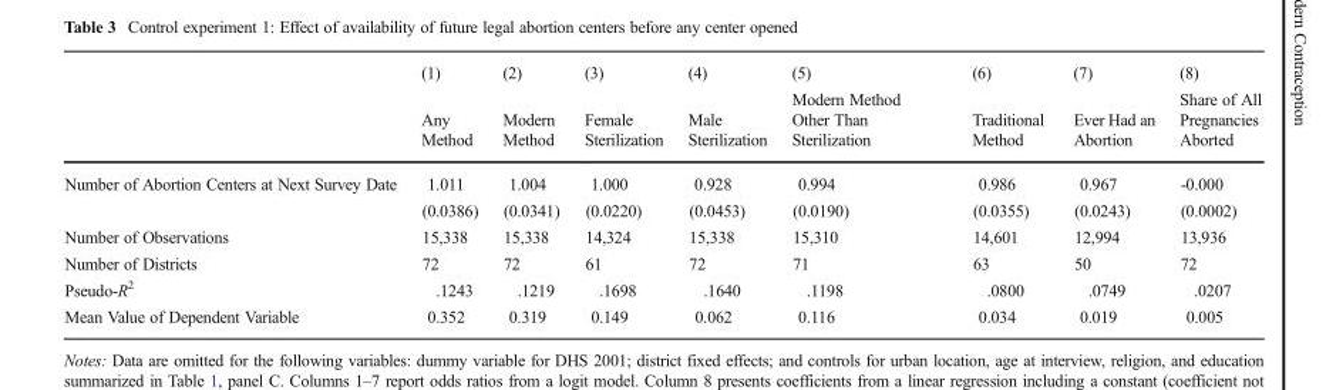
<table><thead><tr><td rowspan="2"></td><td rowspan="2">(1) Any Method</td><td rowspan="2">(2) Modern Method</td><td rowspan="2">(3) Female Sterilization</td><td rowspan="2">(4) Male Sterilization</td><td rowspan="2">(5) Modern Method Other Than Sterilization</td><td rowspan="2">(6) Traditional Method</td><td rowspan="2">(7) Ever Had an Abortion</td><td rowspan="2">(8) Share of All Pregnancies Aborted</td></tr><tr></tr></thead><tbody><tr><td rowspan="2">Number of Abortion Centers at Next Survey Date</td><td>1.011</td><td>1.004</td><td>1.000</td><td>0.928</td><td>0.994</td><td>0.986</td><td>0.967</td><td>-0.000</td></tr><tr><td>(0.0386)</td><td>(0.0341)</td><td>(0.0220)</td><td>(0.0453)</td><td>(0.0190)</td><td>(0.0355)</td><td>(0.0243)</td><td>(0.0002)</td></tr><tr><td>Number of Observations</td><td>15,338</td><td>15,338</td><td>14,324</td><td>15,338</td><td>15,310</td><td>14,601</td><td>12,994</td><td>13,936</td></tr><tr><td>Number of Districts</td><td>72</td><td>72</td><td>61</td><td>72</td><td>71</td><td>63</td><td>50</td><td>72</td></tr><tr><td>Pseudo-R<sup>2</sup></td><td>.1243</td><td>.1219</td><td>.1698</td><td>.1640</td><td>.1198</td><td>.0800</td><td>.0749</td><td>.0207</td></tr><tr><td>Mean Value of Dependent Variable</td><td>0.352</td><td>0.319</td><td>0.149</td><td>0.062</td><td>0.116</td><td>0.034</td><td>0.019</td><td>0.005</td></tr></tbody></table>